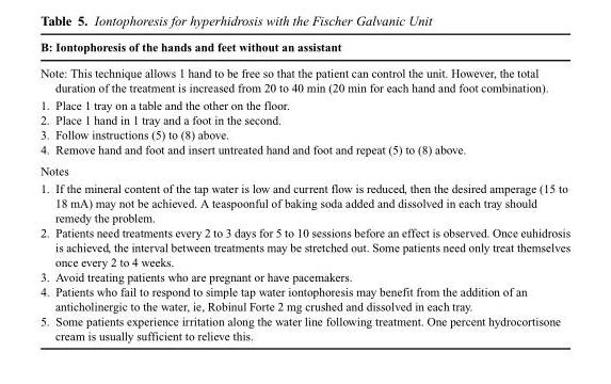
<table><thead><tr><td rowspan="2" colspan="2">B: Iontophoresis of the hands and feet without an assistant Note: This technique allows 1 hand to be free so that the patient can control the unit. However, the total duration of the treatment is increased from 20 to 40 min (20 min for each hand and foot combination).</td></tr><tr></tr><tr><td>1.</td><td>Place 1 tray on a table and the other on the floor.</td></tr></thead><tbody><tr><td>2.</td><td>Place 1 hand in 1 tray and a foot in the second.</td></tr><tr><td>3.</td><td>Follow instructions (5) to (8) above.</td></tr><tr><td>4.</td><td>Remove hand and foot and insert untreated hand and foot and repeat (5) to (8) above.</td></tr><tr><td colspan="2">Notes</td></tr><tr><td>1.</td><td>If the mineral content of the tap water is low and current flow is reduced, then the desired amperage (15 to 18 mA) may not be achieved. A teaspoonful of baking soda added and dissolved in each tray should remedy the problem.</td></tr><tr><td>2.</td><td>Patients need treatments every 2 to 3 days for 5 to 10 sessions before an effect is observed. Once euhidrosis is achieved, the interval between treatments may be stretched out. Some patients need only treat themselves once every 2 to 4 weeks.</td></tr><tr><td>3.</td><td>Avoid treating patients who are pregnant or have pacemakers.</td></tr><tr><td>4.</td><td>Patients who fail to respond to simple tap water iontophoresis may benefit from the addition of an anticholinergic to the water, ie, Robinul Forte 2 mg crushed and dissolved in each tray.</td></tr><tr><td>5.</td><td>Some patients experience irritation along the water line following treatment. One percent hydrocortisone cream is usually sufficient to relieve this.</td></tr></tbody></table>